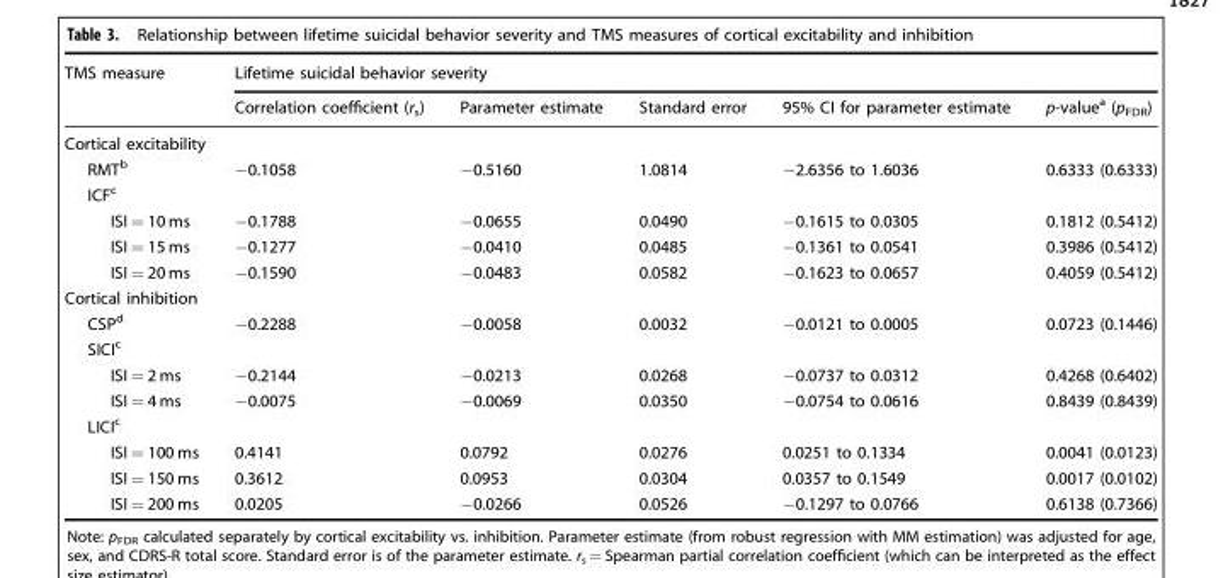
<table><thead><tr><td rowspan="2">TMS measure</td><td colspan="5">Lifetime suicidal behavior severity</td></tr><tr><td>Correlation coefficient (r<sub>s</sub>)</td><td>Parameter estimate</td><td>Standard error</td><td>95% CI for parameter estimate</td><td>p-value<sup>a</sup> (p<sub>FDR</sub>)</td></tr></thead><tbody><tr><td colspan="6">Cortical excitability</td></tr><tr><td>RMT<sup>b</sup></td><td>−0.1058</td><td>−0.5160</td><td>1.0814</td><td>−2.6356 to 1.6036</td><td>0.6333 (0.6333)</td></tr><tr><td colspan="6">ICF<sup>c</sup></td></tr><tr><td>ISI = 10 ms</td><td>−0.1788</td><td>−0.0655</td><td>0.0490</td><td>−0.1615 to 0.0305</td><td>0.1812 (0.5412)</td></tr><tr><td>ISI = 15 ms</td><td>−0.1277</td><td>−0.0410</td><td>0.0485</td><td>−0.1361 to 0.0541</td><td>0.3986 (0.5412)</td></tr><tr><td>ISI = 20 ms</td><td>−0.1590</td><td>−0.0483</td><td>0.0582</td><td>−0.1623 to 0.0657</td><td>0.4059 (0.5412)</td></tr><tr><td colspan="6">Cortical inhibition</td></tr><tr><td>CSP<sup>d</sup></td><td>−0.2288</td><td>−0.0058</td><td>0.0032</td><td>−0.0121 to 0.0005</td><td>0.0723 (0.1446)</td></tr><tr><td colspan="6">SICI<sup>c</sup></td></tr><tr><td>ISI = 2 ms</td><td>−0.2144</td><td>−0.0213</td><td>0.0268</td><td>−0.0737 to 0.0312</td><td>0.4268 (0.6402)</td></tr><tr><td>ISI = 4 ms</td><td>−0.0075</td><td>−0.0069</td><td>0.0350</td><td>−0.0754 to 0.0616</td><td>0.8439 (0.8439)</td></tr><tr><td colspan="6">LICI<sup>c</sup></td></tr><tr><td>ISI = 100 ms</td><td>0.4141</td><td>0.0792</td><td>0.0276</td><td>0.0251 to 0.1334</td><td>0.0041 (0.0123)</td></tr><tr><td>ISI = 150 ms</td><td>0.3612</td><td>0.0953</td><td>0.0304</td><td>0.0357 to 0.1549</td><td>0.0017 (0.0102)</td></tr><tr><td>ISI = 200 ms</td><td>0.0205</td><td>−0.0266</td><td>0.0526</td><td>−0.1297 to 0.0766</td><td>0.6138 (0.7366)</td></tr></tbody></table>